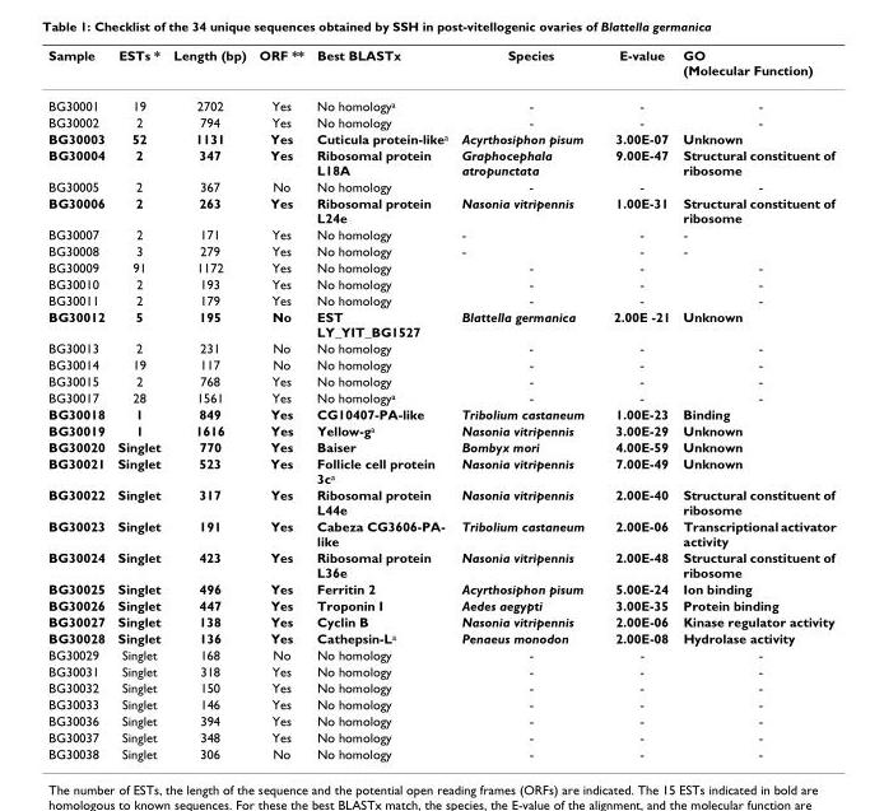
<table><thead><tr><td>Sample</td><td>ESTs *</td><td>Length (bp)</td><td>ORF **</td><td>Best BLASTx</td><td>Species</td><td>E-value</td><td>GO (Molecular Function)</td></tr></thead><tbody><tr><td>BG30001</td><td>19</td><td>2702</td><td>Yes</td><td>No homology<sup>a</sup></td><td>-</td><td>-</td><td>-</td></tr><tr><td>BG30002</td><td>2</td><td>794</td><td>Yes</td><td>No homology</td><td>-</td><td>-</td><td>-</td></tr><tr><td>BG30003</td><td>52</td><td>1131</td><td>Yes</td><td>Cuticula protein-like<sup>a</sup></td><td>Acyrthosiphon pisum</td><td>3.00E-07</td><td>Unknown</td></tr><tr><td>BG30004</td><td>2</td><td>347</td><td>Yes</td><td>Ribosomal protein L18A</td><td>Graphocephala atropunctata</td><td>9.00E-47</td><td>Structural constituent of ribosome</td></tr><tr><td>BG30005</td><td>2</td><td>367</td><td>No</td><td>No homology</td><td>-</td><td>-</td><td>-</td></tr><tr><td>BG30006</td><td>2</td><td>263</td><td>Yes</td><td>Ribosomal protein L24e</td><td>Nasonia vitripennis</td><td>1.00E-31</td><td>Structural constituent of ribosome</td></tr><tr><td>BG30007</td><td>2</td><td>171</td><td>Yes</td><td>No homology</td><td>-</td><td>-</td><td>-</td></tr><tr><td>BG30008</td><td>3</td><td>279</td><td>Yes</td><td>No homology</td><td>-</td><td>-</td><td>-</td></tr><tr><td>BG30009</td><td>91</td><td>1172</td><td>Yes</td><td>No homology</td><td>-</td><td>-</td><td>-</td></tr><tr><td>BG30010</td><td>2</td><td>193</td><td>Yes</td><td>No homology</td><td>-</td><td>-</td><td>-</td></tr><tr><td>BG30011</td><td>2</td><td>179</td><td>Yes</td><td>No homology</td><td>-</td><td>-</td><td>-</td></tr><tr><td>BG30012</td><td>5</td><td>195</td><td>No</td><td>EST LY_YIT_BG1527</td><td>Blattella germanica</td><td>2.00E -21</td><td>Unknown</td></tr><tr><td>BG30013</td><td>2</td><td>231</td><td>No</td><td>No homology</td><td>-</td><td>-</td><td>-</td></tr><tr><td>BG30014</td><td>19</td><td>117</td><td>No</td><td>No homology</td><td>-</td><td>-</td><td>-</td></tr><tr><td>BG30015</td><td>2</td><td>768</td><td>Yes</td><td>No homology</td><td>-</td><td>-</td><td>-</td></tr><tr><td>BG30017</td><td>28</td><td>1561</td><td>Yes</td><td>No homology<sup>a</sup></td><td>-</td><td>-</td><td>-</td></tr><tr><td>BG30018</td><td>1</td><td>849</td><td>Yes</td><td>CG10407-PA-like</td><td>Tribolium castaneum</td><td>1.00E-23</td><td>Binding</td></tr><tr><td>BG30019</td><td>1</td><td>1616</td><td>Yes</td><td>Yellow-g<sup>a</sup></td><td>Nasonia vitripennis</td><td>3.00E-29</td><td>Unknown</td></tr><tr><td>BG30020</td><td>Singlet</td><td>770</td><td>Yes</td><td>Baiser</td><td>Bombyx mori</td><td>4.00E-59</td><td>Unknown</td></tr><tr><td>BG30021</td><td>Singlet</td><td>523</td><td>Yes</td><td>Follicle cell protein 3c<sup>a</sup></td><td>Nasonia vitripennis</td><td>7.00E-49</td><td>Unknown</td></tr><tr><td>BG30022</td><td>Singlet</td><td>317</td><td>Yes</td><td>Ribosomal protein L44e</td><td>Nasonia vitripennis</td><td>2.00E-40</td><td>Structural constituent of ribosome</td></tr><tr><td>BG30023</td><td>Singlet</td><td>191</td><td>Yes</td><td>Cabeza CG3606-PA- like</td><td>Tribolium castaneum</td><td>2.00E-06</td><td>Transcriptional activator activity</td></tr><tr><td>BG30024</td><td>Singlet</td><td>423</td><td>Yes</td><td>Ribosomal protein L36e</td><td>Nasonia vitripennis</td><td>2.00E-48</td><td>Structural constituent of ribosome</td></tr><tr><td>BG30025</td><td>Singlet</td><td>496</td><td>Yes</td><td>Ferritin 2</td><td>Acyrthosiphon pisum</td><td>5.00E-24</td><td>Ion binding</td></tr><tr><td>BG30026</td><td>Singlet</td><td>447</td><td>Yes</td><td>Troponin I</td><td>Aedes aegypti</td><td>3.00E-35</td><td>Protein binding</td></tr><tr><td>BG30027</td><td>Singlet</td><td>138</td><td>Yes</td><td>Cyclin B</td><td>Nasonia vitripennis</td><td>2.00E-06</td><td>Kinase regulator activity</td></tr><tr><td>BG30028</td><td>Singlet</td><td>136</td><td>Yes</td><td>Cathepsin-L<sup>a</sup></td><td>Penaeus monodon</td><td>2.00E-08</td><td>Hydrolase activity</td></tr><tr><td>BG30029</td><td>Singlet</td><td>168</td><td>No</td><td>No homology</td><td>-</td><td>-</td><td>-</td></tr><tr><td>BG30031</td><td>Singlet</td><td>318</td><td>Yes</td><td>No homology</td><td>-</td><td>-</td><td>-</td></tr><tr><td>BG30032</td><td>Singlet</td><td>150</td><td>Yes</td><td>No homology</td><td>-</td><td>-</td><td>-</td></tr><tr><td>BG30033</td><td>Singlet</td><td>146</td><td>Yes</td><td>No homology</td><td>-</td><td>-</td><td>-</td></tr><tr><td>BG30036</td><td>Singlet</td><td>394</td><td>Yes</td><td>No homology</td><td>-</td><td>-</td><td>-</td></tr><tr><td>BG30037</td><td>Singlet</td><td>348</td><td>Yes</td><td>No homology</td><td>-</td><td>-</td><td>-</td></tr><tr><td>BG30038</td><td>Singlet</td><td>306</td><td>No</td><td>No homology</td><td>-</td><td>-</td><td>-</td></tr></tbody></table>